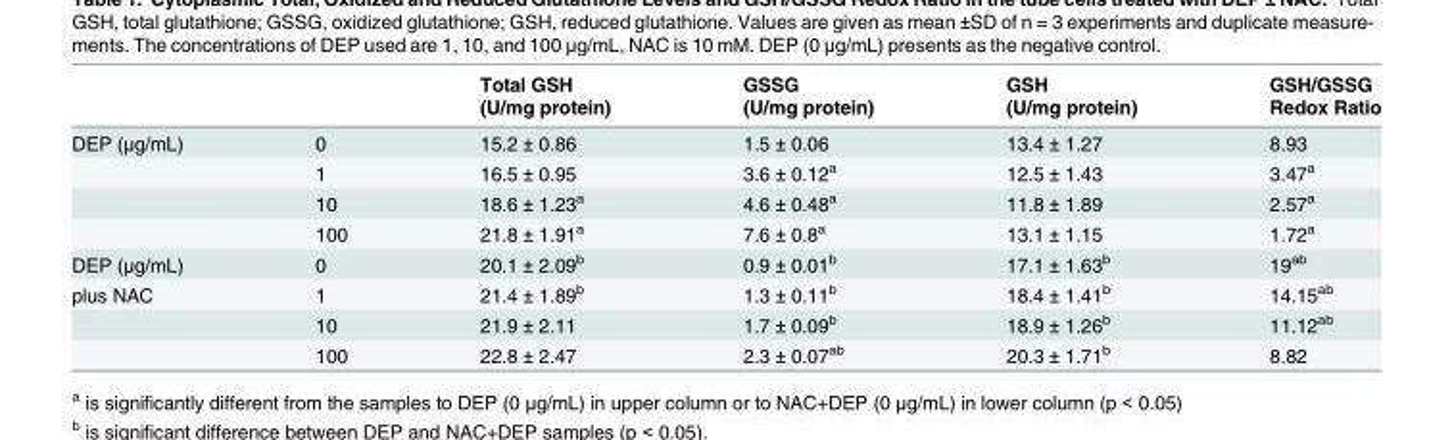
<table><thead><tr><td rowspan="2"></td><td rowspan="2"></td><td rowspan="2">Total GSH (U/mg protein)</td><td rowspan="2">GSSG (U/mg protein)</td><td rowspan="2">GSH (U/mg protein)</td><td rowspan="2">GSH/GSSG Redox Ratio</td></tr><tr></tr></thead><tbody><tr><td rowspan="4">DEP (μg/mL)</td><td>0</td><td>15.2 ± 0.86</td><td>1.5 ± 0.06</td><td>13.4 ± 1.27</td><td>8.93</td></tr><tr><td>1</td><td>16.5 ± 0.95</td><td>3.6 ± 0.12<sup>a</sup></td><td>12.5 ± 1.43</td><td>3.47<sup>a</sup></td></tr><tr><td>10</td><td>18.6 ± 1.23<sup>a</sup></td><td>4.6 ± 0.48<sup>a</sup></td><td>11.8 ± 1.89</td><td>2.57<sup>a</sup></td></tr><tr><td>100</td><td>21.8 ± 1.91<sup>a</sup></td><td>7.6 ± 0.8<sup>a</sup></td><td>13.1 ± 1.15</td><td>1.72<sup>a</sup></td></tr><tr><td>DEP (μg/mL)</td><td>0</td><td>20.1 ± 2.09<sup>b</sup></td><td>0.9 ± 0.01<sup>b</sup></td><td>17.1 ± 1.63<sup>b</sup></td><td>19<sup>ab</sup></td></tr><tr><td rowspan="3">plus NAC</td><td>1</td><td>21.4 ± 1.89<sup>b</sup></td><td>1.3 ± 0.11<sup>b</sup></td><td>18.4 ± 1.41<sup>b</sup></td><td>14.15<sup>ab</sup></td></tr><tr><td>10</td><td>21.9 ± 2.11</td><td>1.7 ± 0.09<sup>b</sup></td><td>18.9 ± 1.26<sup>b</sup></td><td>11.12<sup>ab</sup></td></tr><tr><td>100</td><td>22.8 ± 2.47</td><td>2.3 ± 0.07<sup>ab</sup></td><td>20.3 ± 1.71<sup>b</sup></td><td>8.82</td></tr></tbody></table>